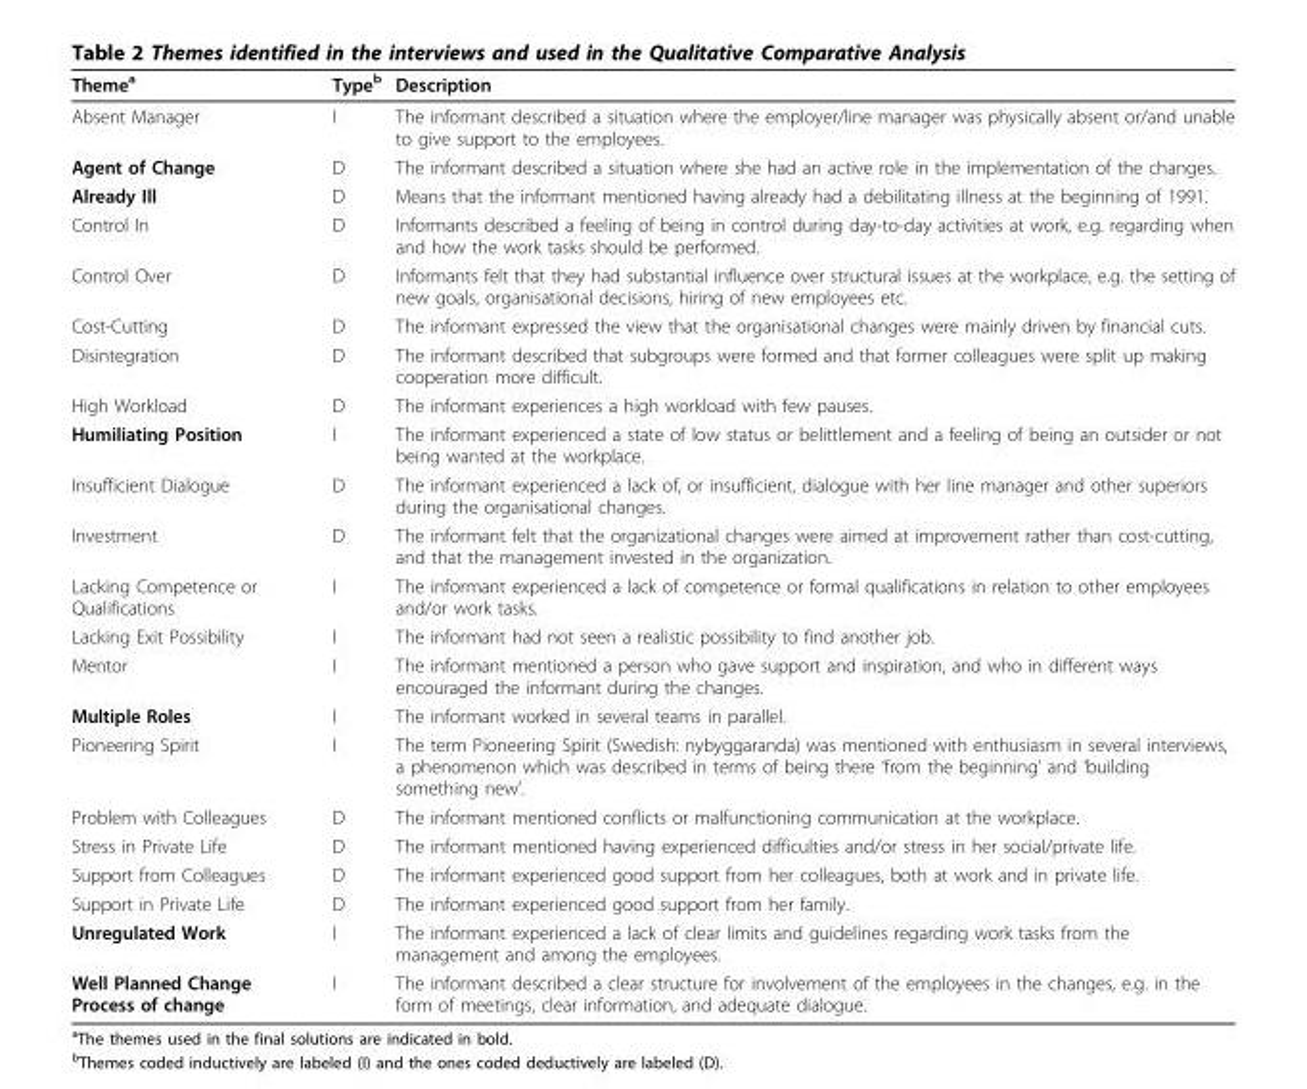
<table><thead><tr><td>Theme<sup>a</sup></td><td>Type<sup>b</sup></td><td>Description</td></tr></thead><tbody><tr><td>Absent Manager</td><td>I</td><td>The informant described a situation where the employer/line manager was physically absent or/and unable to give support to the employees.</td></tr><tr><td>Agent of Change</td><td>D</td><td>The informant described a situation where she had an active role in the implementation of the changes.</td></tr><tr><td>Already Ill</td><td>D</td><td>Means that the informant mentioned having already had a debilitating illness at the beginning of 1991.</td></tr><tr><td>Control In</td><td>D</td><td>Informants described a feeling of being in control during day-to-day activities at work, e.g. regarding when and how the work tasks should be performed.</td></tr><tr><td>Control Over</td><td>D</td><td>Informants felt that they had substantial influence over structural issues at the workplace, e.g. the setting of new goals, organisational decisions, hiring of new employees etc.</td></tr><tr><td>Cost-Cutting</td><td>D</td><td>The informant expressed the view that the organisational changes were mainly driven by financial cuts.</td></tr><tr><td>Disintegration</td><td>D</td><td>The informant described that subgroups were formed and that former colleagues were split up making cooperation more difficult.</td></tr><tr><td>High Workload</td><td>D</td><td>The informant experiences a high workload with few pauses.</td></tr><tr><td>Humiliating Position</td><td>I</td><td>The informant experienced a state of low status or belittlement and a feeling of being an outsider or not being wanted at the workplace.</td></tr><tr><td>Insufficient Dialogue</td><td>D</td><td>The informant experienced a lack of, or insufficient, dialogue with her line manager and other superiors during the organisational changes.</td></tr><tr><td>Investment</td><td>D</td><td>The informant felt that the organizational changes were aimed at improvement rather than cost-cutting, and that the management invested in the organization.</td></tr><tr><td>Lacking Competence or Qualifications</td><td>I</td><td>The informant experienced a lack of competence or formal qualifications in relation to other employees and/or work tasks.</td></tr><tr><td>Lacking Exit Possibility</td><td>I</td><td>The informant had not seen a realistic possibility to find another job.</td></tr><tr><td>Mentor</td><td>I</td><td>The informant mentioned a person who gave support and inspiration, and who in different ways encouraged the informant during the changes.</td></tr><tr><td>Multiple Roles</td><td>I</td><td>The informant worked in several teams in parallel.</td></tr><tr><td>Pioneering Spirit</td><td>I</td><td>The term Pioneering Spirit (Swedish: nybyggaranda) was mentioned with enthusiasm in several interviews, a phenomenon which was described in terms of being there ‘from the beginning’ and ‘building something new’.</td></tr><tr><td>Problem with Colleagues</td><td>D</td><td>The informant mentioned conflicts or malfunctioning communication at the workplace.</td></tr><tr><td>Stress in Private Life</td><td>D</td><td>The informant mentioned having experienced difficulties and/or stress in her social/private life.</td></tr><tr><td>Support from Colleagues</td><td>D</td><td>The informant experienced good support from her colleagues, both at work and in private life.</td></tr><tr><td>Support in Private Life</td><td>D</td><td>The informant experienced good support from her family.</td></tr><tr><td>Unregulated Work</td><td>I</td><td>The informant experienced a lack of clear limits and guidelines regarding work tasks from the management and among the employees.</td></tr><tr><td>Well Planned Change Process of change</td><td>I</td><td>The informant described a clear structure for involvement of the employees in the changes, e.g. in the form of meetings, clear information, and adequate dialogue.</td></tr></tbody></table>